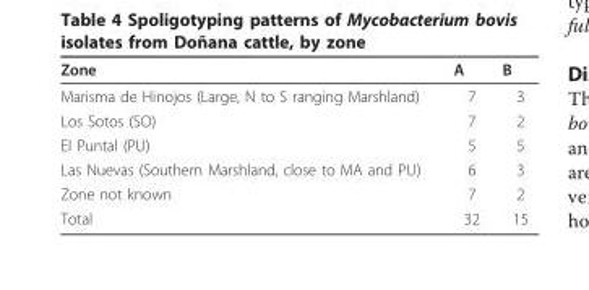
<table><thead><tr><td>Zone</td><td>A</td><td>B</td></tr></thead><tbody><tr><td>Marisma de Hinojos (Large, N to S ranging Marshland)</td><td>7</td><td>3</td></tr><tr><td>Los Sotos (SO)</td><td>7</td><td>2</td></tr><tr><td>El Puntal (PU)</td><td>5</td><td>5</td></tr><tr><td>Las Nuevas (Southern Marshland, close to MA and PU)</td><td>6</td><td>3</td></tr><tr><td>Zone not known</td><td>7</td><td>2</td></tr><tr><td>Total</td><td>32</td><td>15</td></tr></tbody></table>